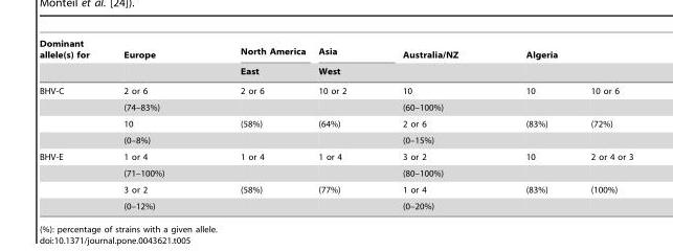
<table><thead><tr><td rowspan="2">Dominant allele(s) for</td><td rowspan="2">Europe</td><td rowspan="2">North America East</td><td rowspan="2">Asia West</td><td rowspan="2">Australia/NZ</td><td colspan="2">Algeria</td></tr><tr><td></td><td></td></tr></thead><tbody><tr><td rowspan="4">BHV-C</td><td>2 or 6</td><td>2 or 6</td><td>10 or 2</td><td>10</td><td>10</td><td>10 or 6</td></tr><tr><td>(74–83%)</td><td></td><td></td><td>(60–100%)</td><td></td><td></td></tr><tr><td>10</td><td>(58%)</td><td>(64%)</td><td>2 or 6</td><td>(83%)</td><td>(72%)</td></tr><tr><td>(0–8%)</td><td></td><td></td><td>(0–15%)</td><td></td><td></td></tr><tr><td rowspan="4">BHV-E</td><td>1 or 4</td><td>1 or 4</td><td>1 or 4</td><td>3 or 2</td><td>10</td><td>2 or 4 or 3</td></tr><tr><td>(71–100%)</td><td></td><td></td><td>(80–100%)</td><td></td><td></td></tr><tr><td>3 or 2</td><td>(58%)</td><td>(77%)</td><td>1 or 4</td><td>(83%)</td><td>(100%)</td></tr><tr><td>(0–12%)</td><td></td><td></td><td>(0–20%)</td><td></td><td></td></tr></tbody></table>